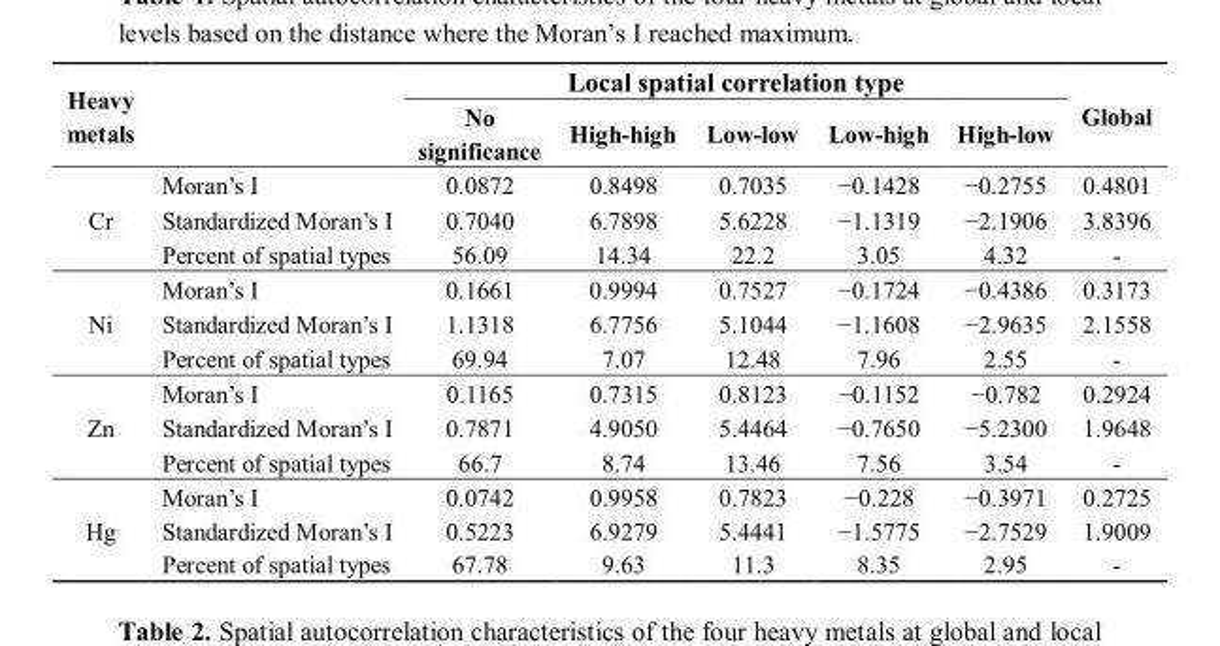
<table><thead><tr><td rowspan="2">Heavy metals</td><td rowspan="2"></td><td colspan="5">Local spatial correlation type</td><td rowspan="2">Global</td></tr><tr><td>No significance</td><td>High-high</td><td>Low-low</td><td>Low-high</td><td>High-low</td></tr></thead><tbody><tr><td rowspan="3">Cr</td><td>Moran’s I</td><td>0.0872</td><td>0.8498</td><td>0.7035</td><td>−0.1428</td><td>−0.2755</td><td>0.4801</td></tr><tr><td>Standardized Moran’s I</td><td>0.7040</td><td>6.7898</td><td>5.6228</td><td>−1.1319</td><td>−2.1906</td><td>3.8396</td></tr><tr><td>Percent of spatial types</td><td>56.09</td><td>14.34</td><td>22.2</td><td>3.05</td><td>4.32</td><td>-</td></tr><tr><td rowspan="3">Ni</td><td>Moran’s I</td><td>0.1661</td><td>0.9994</td><td>0.7527</td><td>−0.1724</td><td>−0.4386</td><td>0.3173</td></tr><tr><td>Standardized Moran’s I</td><td>1.1318</td><td>6.7756</td><td>5.1044</td><td>−1.1608</td><td>−2.9635</td><td>2.1558</td></tr><tr><td>Percent of spatial types</td><td>69.94</td><td>7.07</td><td>12.48</td><td>7.96</td><td>2.55</td><td>-</td></tr><tr><td rowspan="3">Zn</td><td>Moran’s I</td><td>0.1165</td><td>0.7315</td><td>0.8123</td><td>−0.1152</td><td>−0.782</td><td>0.2924</td></tr><tr><td>Standardized Moran’s I</td><td>0.7871</td><td>4.9050</td><td>5.4464</td><td>−0.7650</td><td>−5.2300</td><td>1.9648</td></tr><tr><td>Percent of spatial types</td><td>66.7</td><td>8.74</td><td>13.46</td><td>7.56</td><td>3.54</td><td>-</td></tr><tr><td rowspan="3">Hg</td><td>Moran’s I</td><td>0.0742</td><td>0.9958</td><td>0.7823</td><td>−0.228</td><td>−0.3971</td><td>0.2725</td></tr><tr><td>Standardized Moran’s I</td><td>0.5223</td><td>6.9279</td><td>5.4441</td><td>−1.5775</td><td>−2.7529</td><td>1.9009</td></tr><tr><td>Percent of spatial types</td><td>67.78</td><td>9.63</td><td>11.3</td><td>8.35</td><td>2.95</td><td>-</td></tr></tbody></table>